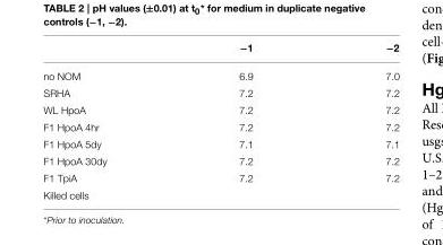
<table><thead><tr><td></td><td>−1</td><td>−2</td></tr></thead><tbody><tr><td>no NOM</td><td>6.9</td><td>7.0</td></tr><tr><td>SRHA</td><td>7.2</td><td>7.2</td></tr><tr><td>WL HpoA</td><td>7.2</td><td>7.2</td></tr><tr><td>F1 HpoA 4hr</td><td>7.2</td><td>7.2</td></tr><tr><td>F1 HpoA 5dy</td><td>7.1</td><td>7.1</td></tr><tr><td>F1 HpoA 30dy</td><td>7.2</td><td>7.2</td></tr><tr><td>F1 TpiA</td><td>7.2</td><td>7.2</td></tr><tr><td colspan="3">Killed cells</td></tr></tbody></table>